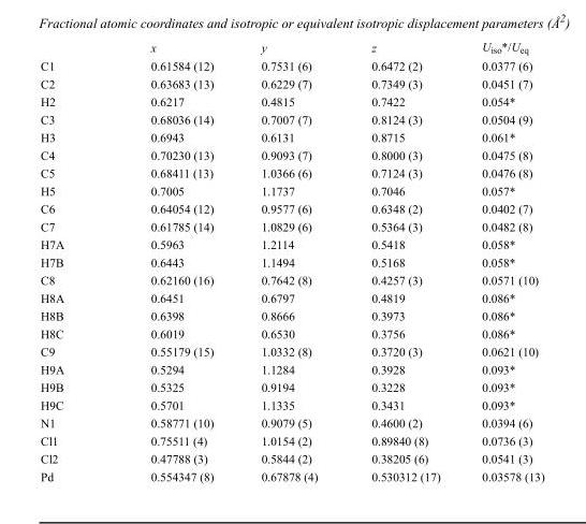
<table><thead><tr><td></td><td>x</td><td>y</td><td>z</td><td>U<sub>iso</sub>*/U<sub>eq</sub></td></tr></thead><tbody><tr><td>C1</td><td>0.61584 (12)</td><td>0.7531 (6)</td><td>0.6472 (2)</td><td>0.0377 (6)</td></tr><tr><td>C2</td><td>0.63683 (13)</td><td>0.6229 (7)</td><td>0.7349 (3)</td><td>0.0451 (7)</td></tr><tr><td>H2</td><td>0.6217</td><td>0.4815</td><td>0.7422</td><td>0.054*</td></tr><tr><td>C3</td><td>0.68036 (14)</td><td>0.7007 (7)</td><td>0.8124 (3)</td><td>0.0504 (9)</td></tr><tr><td>H3</td><td>0.6943</td><td>0.6131</td><td>0.8715</td><td>0.061*</td></tr><tr><td>C4</td><td>0.70230 (13)</td><td>0.9093 (7)</td><td>0.8000 (3)</td><td>0.0475 (8)</td></tr><tr><td>C5</td><td>0.68411 (13)</td><td>1.0366 (6)</td><td>0.7124 (3)</td><td>0.0476 (8)</td></tr><tr><td>H5</td><td>0.7005</td><td>1.1737</td><td>0.7046</td><td>0.057*</td></tr><tr><td>C6</td><td>0.64054 (12)</td><td>0.9577 (6)</td><td>0.6348 (2)</td><td>0.0402 (7)</td></tr><tr><td>C7</td><td>0.61785 (14)</td><td>1.0829 (6)</td><td>0.5364 (3)</td><td>0.0482 (8)</td></tr><tr><td>H7A</td><td>0.5963</td><td>1.2114</td><td>0.5418</td><td>0.058*</td></tr><tr><td>H7B</td><td>0.6443</td><td>1.1494</td><td>0.5168</td><td>0.058*</td></tr><tr><td>C8</td><td>0.62160 (16)</td><td>0.7642 (8)</td><td>0.4257 (3)</td><td>0.0571 (10)</td></tr><tr><td>H8A</td><td>0.6451</td><td>0.6797</td><td>0.4819</td><td>0.086*</td></tr><tr><td>H8B</td><td>0.6398</td><td>0.8666</td><td>0.3973</td><td>0.086*</td></tr><tr><td>H8C</td><td>0.6019</td><td>0.6530</td><td>0.3756</td><td>0.086*</td></tr><tr><td>C9</td><td>0.55179 (15)</td><td>1.0332 (8)</td><td>0.3720 (3)</td><td>0.0621 (10)</td></tr><tr><td>H9A</td><td>0.5294</td><td>1.1284</td><td>0.3928</td><td>0.093*</td></tr><tr><td>H9B</td><td>0.5325</td><td>0.9194</td><td>0.3228</td><td>0.093*</td></tr><tr><td>H9C</td><td>0.5701</td><td>1.1335</td><td>0.3431</td><td>0.093*</td></tr><tr><td>N1</td><td>0.58771 (10)</td><td>0.9079 (5)</td><td>0.4600 (2)</td><td>0.0394 (6)</td></tr><tr><td>Cl1</td><td>0.75511 (4)</td><td>1.0154 (2)</td><td>0.89840 (8)</td><td>0.0736 (3)</td></tr><tr><td>Cl2</td><td>0.47788 (3)</td><td>0.5844 (2)</td><td>0.38205 (6)</td><td>0.0541 (3)</td></tr><tr><td>Pd</td><td>0.554347 (8)</td><td>0.67878 (4)</td><td>0.530312 (17)</td><td>0.03578 (13)</td></tr></tbody></table>